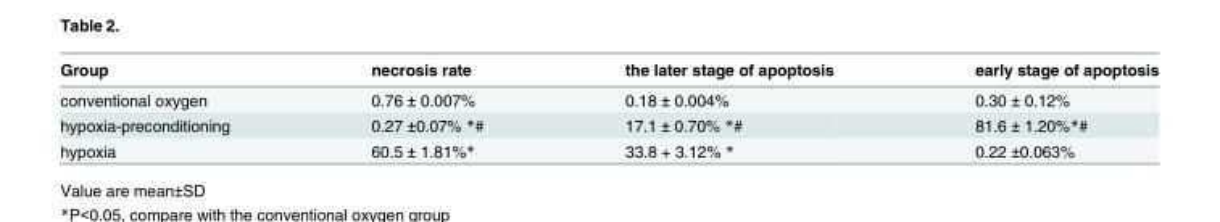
<table><thead><tr><td>Group</td><td>necrosis rate</td><td>the later stage of apoptosis</td><td>early stage of apoptosis</td></tr></thead><tbody><tr><td>conventional oxygen</td><td>0.76 ± 0.007%</td><td>0.18 ± 0.004%</td><td>0.30 ± 0.12%</td></tr><tr><td>hypoxia-preconditioning</td><td>0.27 ±0.07% *#</td><td>17.1 ± 0.70% *#</td><td>81.6 ± 1.20%*#</td></tr><tr><td>hypoxia</td><td>60.5 ± 1.81%*</td><td>33.8 + 3.12% *</td><td>0.22 ±0.063%</td></tr></tbody></table>